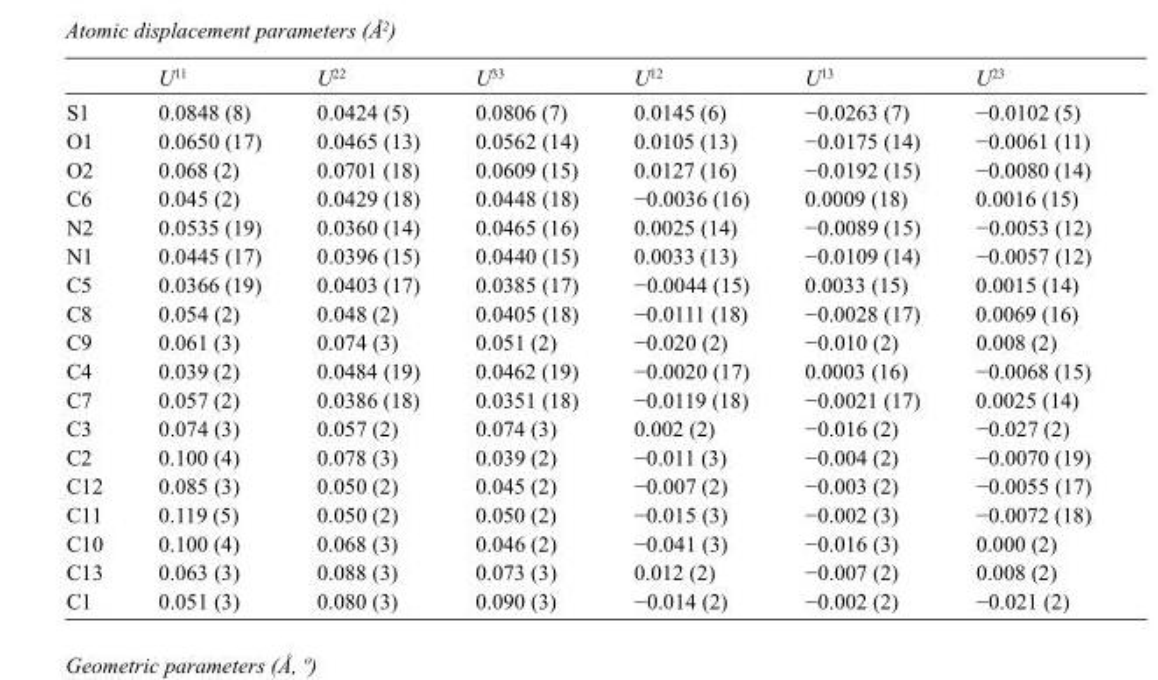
<table><thead><tr><td></td><td>U<sup>11</sup></td><td>U<sup>22</sup></td><td>U<sup>33</sup></td><td>U<sup>12</sup></td><td>U<sup>13</sup></td><td>U<sup>23</sup></td></tr></thead><tbody><tr><td>S1</td><td>0.0848 (8)</td><td>0.0424 (5)</td><td>0.0806 (7)</td><td>0.0145 (6)</td><td>−0.0263 (7)</td><td>−0.0102 (5)</td></tr><tr><td>O1</td><td>0.0650 (17)</td><td>0.0465 (13)</td><td>0.0562 (14)</td><td>0.0105 (13)</td><td>−0.0175 (14)</td><td>−0.0061 (11)</td></tr><tr><td>O2</td><td>0.068 (2)</td><td>0.0701 (18)</td><td>0.0609 (15)</td><td>0.0127 (16)</td><td>−0.0192 (15)</td><td>−0.0080 (14)</td></tr><tr><td>C6</td><td>0.045 (2)</td><td>0.0429 (18)</td><td>0.0448 (18)</td><td>−0.0036 (16)</td><td>0.0009 (18)</td><td>0.0016 (15)</td></tr><tr><td>N2</td><td>0.0535 (19)</td><td>0.0360 (14)</td><td>0.0465 (16)</td><td>0.0025 (14)</td><td>−0.0089 (15)</td><td>−0.0053 (12)</td></tr><tr><td>N1</td><td>0.0445 (17)</td><td>0.0396 (15)</td><td>0.0440 (15)</td><td>0.0033 (13)</td><td>−0.0109 (14)</td><td>−0.0057 (12)</td></tr><tr><td>C5</td><td>0.0366 (19)</td><td>0.0403 (17)</td><td>0.0385 (17)</td><td>−0.0044 (15)</td><td>0.0033 (15)</td><td>0.0015 (14)</td></tr><tr><td>C8</td><td>0.054 (2)</td><td>0.048 (2)</td><td>0.0405 (18)</td><td>−0.0111 (18)</td><td>−0.0028 (17)</td><td>0.0069 (16)</td></tr><tr><td>C9</td><td>0.061 (3)</td><td>0.074 (3)</td><td>0.051 (2)</td><td>−0.020 (2)</td><td>−0.010 (2)</td><td>0.008 (2)</td></tr><tr><td>C4</td><td>0.039 (2)</td><td>0.0484 (19)</td><td>0.0462 (19)</td><td>−0.0020 (17)</td><td>0.0003 (16)</td><td>−0.0068 (15)</td></tr><tr><td>C7</td><td>0.057 (2)</td><td>0.0386 (18)</td><td>0.0351 (18)</td><td>−0.0119 (18)</td><td>−0.0021 (17)</td><td>0.0025 (14)</td></tr><tr><td>C3</td><td>0.074 (3)</td><td>0.057 (2)</td><td>0.074 (3)</td><td>0.002 (2)</td><td>−0.016 (2)</td><td>−0.027 (2)</td></tr><tr><td>C2</td><td>0.100 (4)</td><td>0.078 (3)</td><td>0.039 (2)</td><td>−0.011 (3)</td><td>−0.004 (2)</td><td>−0.0070 (19)</td></tr><tr><td>C12</td><td>0.085 (3)</td><td>0.050 (2)</td><td>0.045 (2)</td><td>−0.007 (2)</td><td>−0.003 (2)</td><td>−0.0055 (17)</td></tr><tr><td>C11</td><td>0.119 (5)</td><td>0.050 (2)</td><td>0.050 (2)</td><td>−0.015 (3)</td><td>−0.002 (3)</td><td>−0.0072 (18)</td></tr><tr><td>C10</td><td>0.100 (4)</td><td>0.068 (3)</td><td>0.046 (2)</td><td>−0.041 (3)</td><td>−0.016 (3)</td><td>0.000 (2)</td></tr><tr><td>C13</td><td>0.063 (3)</td><td>0.088 (3)</td><td>0.073 (3)</td><td>0.012 (2)</td><td>−0.007 (2)</td><td>0.008 (2)</td></tr><tr><td>C1</td><td>0.051 (3)</td><td>0.080 (3)</td><td>0.090 (3)</td><td>−0.014 (2)</td><td>−0.002 (2)</td><td>−0.021 (2)</td></tr></tbody></table>